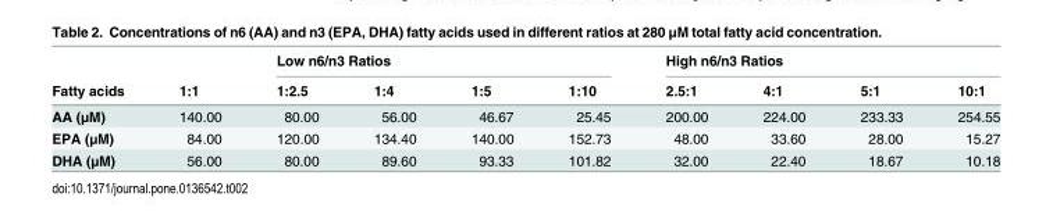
<table><thead><tr><td rowspan="2">Fatty acids</td><td rowspan="2">1:1</td><td colspan="4">Low n6/n3 Ratios</td><td colspan="4">High n6/n3 Ratios</td></tr><tr><td>1:2.5</td><td>1:4</td><td>1:5</td><td>1:10</td><td>2.5:1</td><td>4:1</td><td>5:1</td><td>10:1</td></tr></thead><tbody><tr><td>AA (μM)</td><td>140.00</td><td>80.00</td><td>56.00</td><td>46.67</td><td>25.45</td><td>200.00</td><td>224.00</td><td>233.33</td><td>254.55</td></tr><tr><td>EPA (μM)</td><td>84.00</td><td>120.00</td><td>134.40</td><td>140.00</td><td>152.73</td><td>48.00</td><td>33.60</td><td>28.00</td><td>15.27</td></tr><tr><td>DHA (μM)</td><td>56.00</td><td>80.00</td><td>89.60</td><td>93.33</td><td>101.82</td><td>32.00</td><td>22.40</td><td>18.67</td><td>10.18</td></tr></tbody></table>